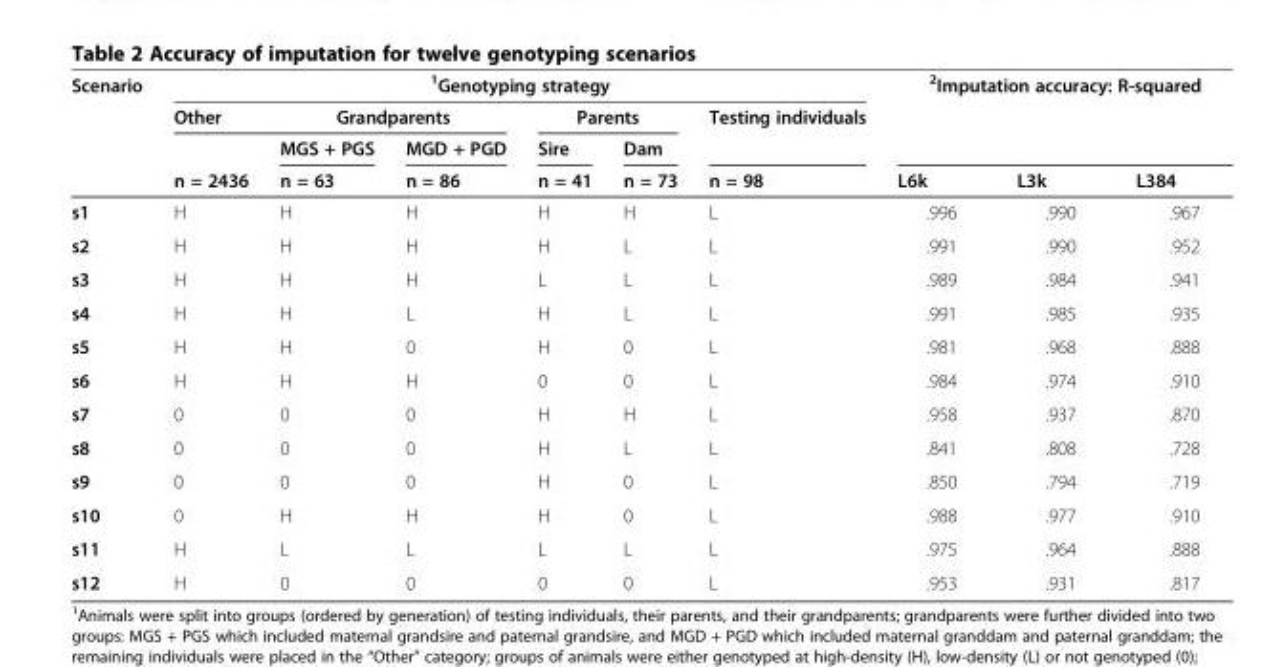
<table><thead><tr><td rowspan="4">Scenario</td><td colspan="6"><sup>1</sup>Genotyping strategy</td><td colspan="3"><sup>2</sup>Imputation accuracy: R-squared</td></tr><tr><td rowspan="3">Other n = 2436</td><td colspan="2">Grandparents</td><td colspan="2">Parents</td><td rowspan="3">Testing individuals n = 98</td><td rowspan="3">L6k</td><td rowspan="3">L3k</td><td rowspan="3">L384</td></tr><tr><td rowspan="2">MGS + PGS n = 63</td><td rowspan="2">MGD + PGD n = 86</td><td rowspan="2">Sire n = 41</td><td rowspan="2">Dam n = 73</td></tr><tr></tr></thead><tbody><tr><td>s1</td><td>H</td><td>H</td><td>H</td><td>H</td><td>H</td><td>L</td><td>.996</td><td>.990</td><td>.967</td></tr><tr><td>s2</td><td>H</td><td>H</td><td>H</td><td>H</td><td>L</td><td>L</td><td>.991</td><td>.990</td><td>.952</td></tr><tr><td>s3</td><td>H</td><td>H</td><td>H</td><td>L</td><td>L</td><td>L</td><td>.989</td><td>.984</td><td>.941</td></tr><tr><td>s4</td><td>H</td><td>H</td><td>L</td><td>H</td><td>L</td><td>L</td><td>.991</td><td>.985</td><td>.935</td></tr><tr><td>s5</td><td>H</td><td>H</td><td>0</td><td>H</td><td>0</td><td>L</td><td>.981</td><td>.968</td><td>.888</td></tr><tr><td>s6</td><td>H</td><td>H</td><td>H</td><td>0</td><td>0</td><td>L</td><td>.984</td><td>.974</td><td>.910</td></tr><tr><td>s7</td><td>0</td><td>0</td><td>0</td><td>H</td><td>H</td><td>L</td><td>.958</td><td>.937</td><td>.870</td></tr><tr><td>s8</td><td>0</td><td>0</td><td>0</td><td>H</td><td>L</td><td>L</td><td>.841</td><td>.808</td><td>.728</td></tr><tr><td>s9</td><td>0</td><td>0</td><td>0</td><td>H</td><td>0</td><td>L</td><td>.850</td><td>.794</td><td>.719</td></tr><tr><td>s10</td><td>0</td><td>H</td><td>H</td><td>H</td><td>0</td><td>L</td><td>.988</td><td>.977</td><td>.910</td></tr><tr><td>s11</td><td>H</td><td>L</td><td>L</td><td>L</td><td>L</td><td>L</td><td>.975</td><td>.964</td><td>.888</td></tr><tr><td>s12</td><td>H</td><td>0</td><td>0</td><td>0</td><td>0</td><td>L</td><td>.953</td><td>.931</td><td>.817</td></tr></tbody></table>